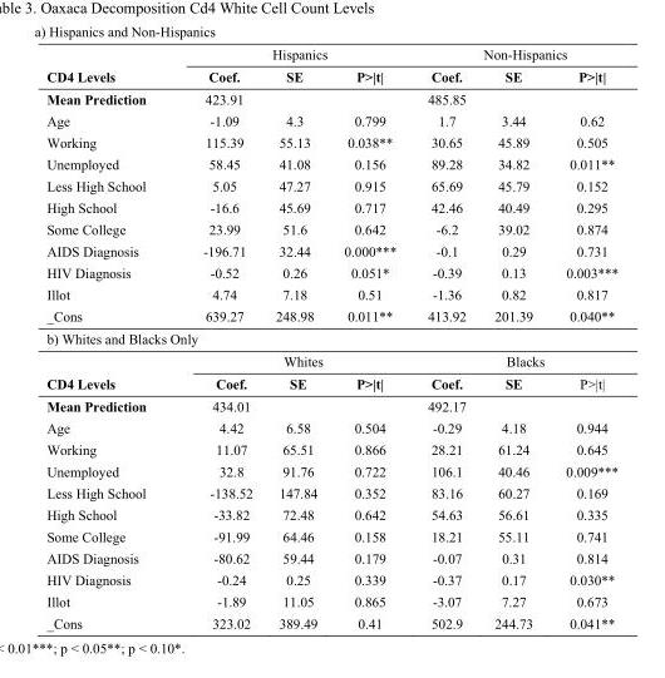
<table><thead><tr><td rowspan="2">CD4 Levels</td><td colspan="3">Hispanics</td><td colspan="3">Non-Hispanics</td></tr><tr><td>Coef.</td><td>SE</td><td>P&gt;|t|</td><td>Coef.</td><td>SE</td><td>P&gt;|t|</td></tr></thead><tbody><tr><td>Mean Prediction</td><td>423.91</td><td></td><td></td><td>485.85</td><td></td><td></td></tr><tr><td>Age</td><td>-1.09</td><td>4.3</td><td>0.799</td><td>1.7</td><td>3.44</td><td>0.62</td></tr><tr><td>Working</td><td>115.39</td><td>55.13</td><td>0.038**</td><td>30.65</td><td>45.89</td><td>0.505</td></tr><tr><td>Unemployed</td><td>58.45</td><td>41.08</td><td>0.156</td><td>89.28</td><td>34.82</td><td>0.011**</td></tr><tr><td>Less High School</td><td>5.05</td><td>47.27</td><td>0.915</td><td>65.69</td><td>45.79</td><td>0.152</td></tr><tr><td>High School</td><td>-16.6</td><td>45.69</td><td>0.717</td><td>42.46</td><td>40.49</td><td>0.295</td></tr><tr><td>Some College</td><td>23.99</td><td>51.6</td><td>0.642</td><td>-6.2</td><td>39.02</td><td>0.874</td></tr><tr><td>AIDS Diagnosis</td><td>-196.71</td><td>32.44</td><td>0.000***</td><td>-0.1</td><td>0.29</td><td>0.731</td></tr><tr><td>HIV Diagnosis</td><td>-0.52</td><td>0.26</td><td>0.051*</td><td>-0.39</td><td>0.13</td><td>0.003***</td></tr><tr><td>Illot</td><td>4.74</td><td>7.18</td><td>0.51</td><td>-1.36</td><td>0.82</td><td>0.817</td></tr><tr><td>_Cons</td><td>639.27</td><td>248.98</td><td>0.011**</td><td>413.92</td><td>201.39</td><td>0.040**</td></tr><tr><td colspan="7">b) Whites and Blacks Only</td></tr><tr><td></td><td colspan="3">Whites</td><td colspan="3">Blacks</td></tr><tr><td>CD4 Levels</td><td>Coef.</td><td>SE</td><td>P&gt;|t|</td><td>Coef.</td><td>SE</td><td>P&gt;|t|</td></tr><tr><td>Mean Prediction</td><td>434.01</td><td></td><td></td><td>492.17</td><td></td><td></td></tr><tr><td>Age</td><td>4.42</td><td>6.58</td><td>0.504</td><td>-0.29</td><td>4.18</td><td>0.944</td></tr><tr><td>Working</td><td>11.07</td><td>65.51</td><td>0.866</td><td>28.21</td><td>61.24</td><td>0.645</td></tr><tr><td>Unemployed</td><td>32.8</td><td>91.76</td><td>0.722</td><td>106.1</td><td>40.46</td><td>0.009***</td></tr><tr><td>Less High School</td><td>-138.52</td><td>147.84</td><td>0.352</td><td>83.16</td><td>60.27</td><td>0.169</td></tr><tr><td>High School</td><td>-33.82</td><td>72.48</td><td>0.642</td><td>54.63</td><td>56.61</td><td>0.335</td></tr><tr><td>Some College</td><td>-91.99</td><td>64.46</td><td>0.158</td><td>18.21</td><td>55.11</td><td>0.741</td></tr><tr><td>AIDS Diagnosis</td><td>-80.62</td><td>59.44</td><td>0.179</td><td>-0.07</td><td>0.31</td><td>0.814</td></tr><tr><td>HIV Diagnosis</td><td>-0.24</td><td>0.25</td><td>0.339</td><td>-0.37</td><td>0.17</td><td>0.030**</td></tr><tr><td>Illot</td><td>-1.89</td><td>11.05</td><td>0.865</td><td>-3.07</td><td>7.27</td><td>0.673</td></tr><tr><td>_Cons</td><td>323.02</td><td>389.49</td><td>0.41</td><td>502.9</td><td>244.73</td><td>0.041**</td></tr></tbody></table>